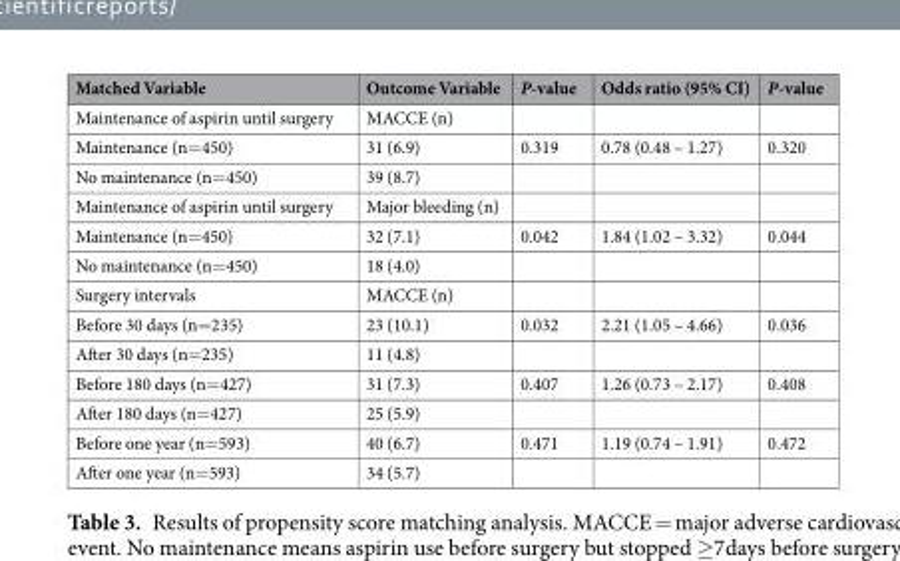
<table><thead><tr><td>Matched Variable</td><td>Outcome Variable</td><td>P-value</td><td>Odds ratio (95% CI)</td><td>P-value</td></tr></thead><tbody><tr><td>Maintenance of aspirin until surgery</td><td>MACCE (n)</td><td></td><td></td><td></td></tr><tr><td>Maintenance (n=450)</td><td>31 (6.9)</td><td>0.319</td><td>0.78 (0.48 – 1.27)</td><td>0.320</td></tr><tr><td>No maintenance (n=450)</td><td>39 (8.7)</td><td></td><td></td><td></td></tr><tr><td>Maintenance of aspirin until surgery</td><td>Major bleeding (n)</td><td></td><td></td><td></td></tr><tr><td>Maintenance (n=450)</td><td>32 (7.1)</td><td>0.042</td><td>1.84 (1.02 – 3.32)</td><td>0.044</td></tr><tr><td>No maintenance (n=450)</td><td>18 (4.0)</td><td></td><td></td><td></td></tr><tr><td>Surgery intervals</td><td>MACCE (n)</td><td></td><td></td><td></td></tr><tr><td>Before 30 days (n=235)</td><td>23 (10.1)</td><td>0.032</td><td>2.21 (1.05 – 4.66)</td><td>0.036</td></tr><tr><td>After 30 days (n=235)</td><td>11 (4.8)</td><td></td><td></td><td></td></tr><tr><td>Before 180 days (n=427)</td><td>31 (7.3)</td><td>0.407</td><td>1.26 (0.73 – 2.17)</td><td>0.408</td></tr><tr><td>After 180 days (n=427)</td><td>25 (5.9)</td><td></td><td></td><td></td></tr><tr><td>Before one year (n=593)</td><td>40 (6.7)</td><td>0.471</td><td>1.19 (0.74 – 1.91)</td><td>0.472</td></tr><tr><td>After one year (n=593)</td><td>34 (5.7)</td><td></td><td></td><td></td></tr></tbody></table>